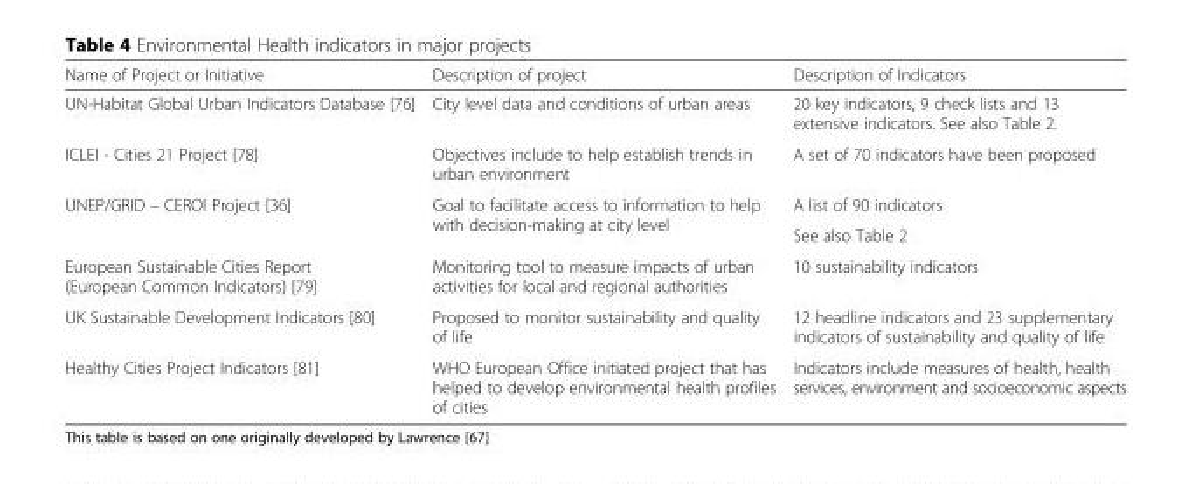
<table><thead><tr><td>Name of Project or Initiative</td><td>Description of project</td><td>Description of Indicators</td></tr></thead><tbody><tr><td>UN-Habitat Global Urban Indicators Database [76]</td><td>City level data and conditions of urban areas</td><td>20 key indicators, 9 check lists and 13 extensive indicators. See also Table 2.</td></tr><tr><td>ICLEI - Cities 21 Project [78]</td><td>Objectives include to help establish trends in urban environment</td><td>A set of 70 indicators have been proposed</td></tr><tr><td rowspan="2">UNEP/GRID – CEROI Project [36]</td><td rowspan="2">Goal to facilitate access to information to help with decision-making at city level</td><td>A list of 90 indicators</td></tr><tr><td>See also Table 2</td></tr><tr><td>European Sustainable Cities Report (European Common Indicators) [79]</td><td>Monitoring tool to measure impacts of urban activities for local and regional authorities</td><td>10 sustainability indicators</td></tr><tr><td>UK Sustainable Development Indicators [80]</td><td>Proposed to monitor sustainability and quality of life</td><td>12 headline indicators and 23 supplementary indicators of sustainability and quality of life</td></tr><tr><td>Healthy Cities Project Indicators [81]</td><td>WHO European Office initiated project that has helped to develop environmental health profiles of cities</td><td>Indicators include measures of health, health services, environment and socioeconomic aspects</td></tr></tbody></table>